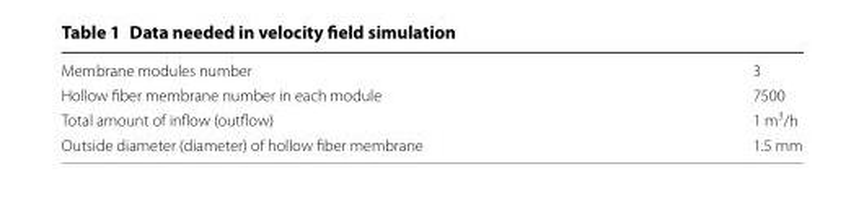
<table><tbody><tr><td>Membrane modules number</td><td>3</td></tr><tr><td>Hollow fiber membrane number in each module</td><td>7500</td></tr><tr><td>Total amount of inflow (outflow)</td><td>1 m<sup>3</sup>/h</td></tr><tr><td>Outside diameter (diameter) of hollow fiber membrane</td><td>1.5 mm</td></tr></tbody></table>